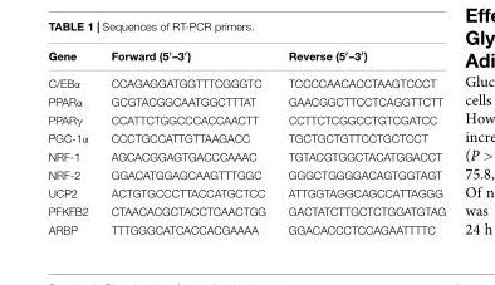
<table><thead><tr><td>Gene</td><td>Forward (5′–3′)</td><td>Reverse (5′–3′)</td></tr></thead><tbody><tr><td>C/EBα</td><td>CCAGAGGATGGTTTCGGGTC</td><td>TCCCCAACACCTAAGTCCCT</td></tr><tr><td>PPARα</td><td>GCGTACGGCAATGGCTTTAT</td><td>GAACGGCTTCCTCAGGTTCTT</td></tr><tr><td>PPARγ</td><td>CCATTCTGGCCCACCAACTT</td><td>CCTTCTCGGCCTGTCGATCC</td></tr><tr><td>PGC-1α</td><td>CCCTGCCATTGTTAAGACC</td><td>TGCTGCTGTTCCTGCTCCT</td></tr><tr><td>NRF-1</td><td>AGCACGGAGTGACCCAAAC</td><td>TGTACGTGGCTACATGGACCT</td></tr><tr><td>NRF-2</td><td>GGACATGGAGCAAGTTTGGC</td><td>GGGCTGGGGACAGTGGTAGT</td></tr><tr><td>UCP2</td><td>ACTGTGCCCTTACCATGCTCC</td><td>ATTGGTAGGCAGCCATTAGGG</td></tr><tr><td>PFKFB2</td><td>CTAACACGCTACCTCAACTGG</td><td>GACTATCTTGCTCTGGATGTAG</td></tr><tr><td>ARBP</td><td>TTTGGGCATCACCACGAAAA</td><td>GGACACCCTCCAGAATTTTC</td></tr></tbody></table>